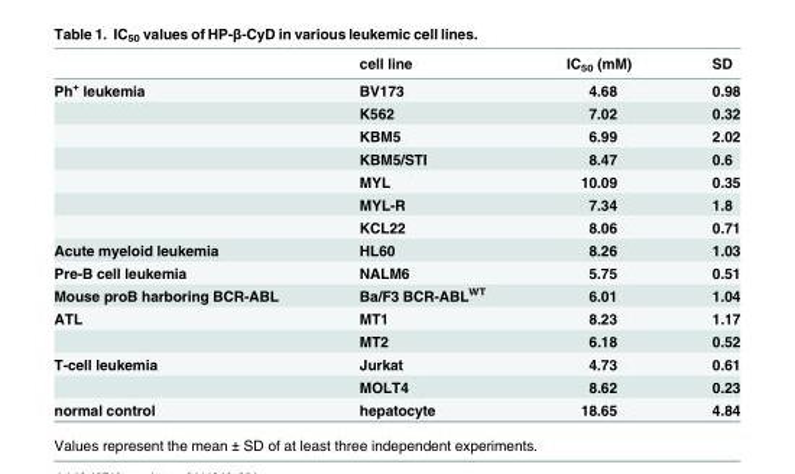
<table><thead><tr><td></td><td>cell line</td><td>IC<sub>50</sub> (mM)</td><td>SD</td></tr></thead><tbody><tr><td rowspan="7">Ph<sup>+</sup> leukemia</td><td>BV173</td><td>4.68</td><td>0.98</td></tr><tr><td>K562</td><td>7.02</td><td>0.32</td></tr><tr><td>KBM5</td><td>6.99</td><td>2.02</td></tr><tr><td>KBM5/STI</td><td>8.47</td><td>0.6</td></tr><tr><td>MYL</td><td>10.09</td><td>0.35</td></tr><tr><td>MYL-R</td><td>7.34</td><td>1.8</td></tr><tr><td>KCL22</td><td>8.06</td><td>0.71</td></tr><tr><td>Acute myeloid leukemia</td><td>HL60</td><td>8.26</td><td>1.03</td></tr><tr><td>Pre-B cell leukemia</td><td>NALM6</td><td>5.75</td><td>0.51</td></tr><tr><td>Mouse proB harboring BCR-ABL</td><td>Ba/F3 BCR-ABL<sup>WT</sup></td><td>6.01</td><td>1.04</td></tr><tr><td rowspan="2">ATL</td><td>MT1</td><td>8.23</td><td>1.17</td></tr><tr><td>MT2</td><td>6.18</td><td>0.52</td></tr><tr><td rowspan="2">T-cell leukemia</td><td>Jurkat</td><td>4.73</td><td>0.61</td></tr><tr><td>MOLT4</td><td>8.62</td><td>0.23</td></tr><tr><td>normal control</td><td>hepatocyte</td><td>18.65</td><td>4.84</td></tr></tbody></table>